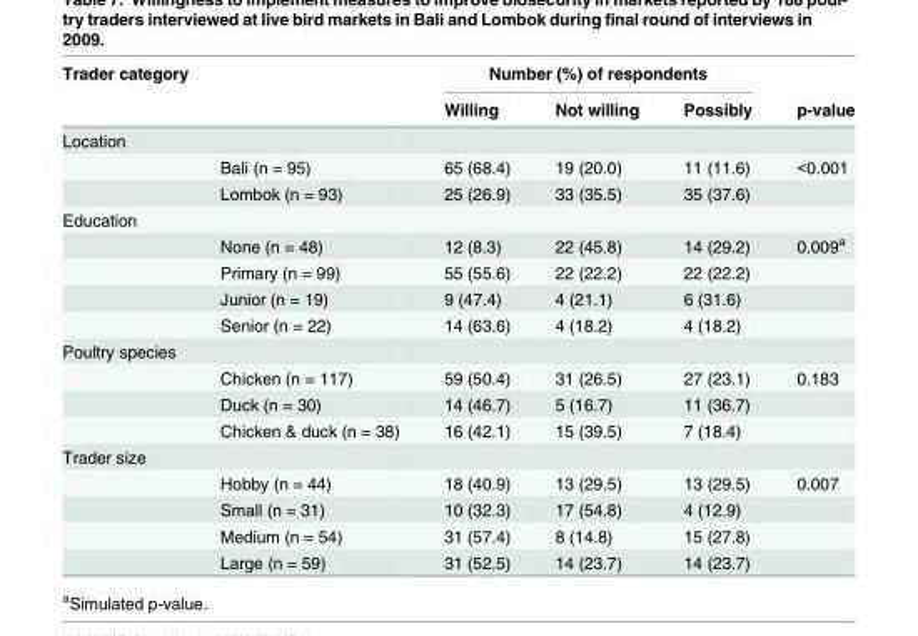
<table><thead><tr><td colspan="2">Trader category</td><td colspan="3">Number (%) of respondents</td><td rowspan="2">p-value</td></tr><tr><td></td><td></td><td>Willing</td><td>Not willing</td><td>Possibly</td></tr></thead><tbody><tr><td colspan="6">Location</td></tr><tr><td></td><td>Bali (n = 95)</td><td>65 (68.4)</td><td>19 (20.0)</td><td>11 (11.6)</td><td>&lt;0.001</td></tr><tr><td></td><td>Lombok (n = 93)</td><td>25 (26.9)</td><td>33 (35.5)</td><td>35 (37.6)</td><td></td></tr><tr><td colspan="6">Education</td></tr><tr><td></td><td>None (n = 48)</td><td>12 (8.3)</td><td>22 (45.8)</td><td>14 (29.2)</td><td>0.009<sup>a</sup></td></tr><tr><td></td><td>Primary (n = 99)</td><td>55 (55.6)</td><td>22 (22.2)</td><td>22 (22.2)</td><td></td></tr><tr><td></td><td>Junior (n = 19)</td><td>9 (47.4)</td><td>4 (21.1)</td><td>6 (31.6)</td><td></td></tr><tr><td></td><td>Senior (n = 22)</td><td>14 (63.6)</td><td>4 (18.2)</td><td>4 (18.2)</td><td></td></tr><tr><td colspan="6">Poultry species</td></tr><tr><td></td><td>Chicken (n = 117)</td><td>59 (50.4)</td><td>31 (26.5)</td><td>27 (23.1)</td><td>0.183</td></tr><tr><td></td><td>Duck (n = 30)</td><td>14 (46.7)</td><td>5 (16.7)</td><td>11 (36.7)</td><td></td></tr><tr><td></td><td>Chicken &amp; duck (n = 38)</td><td>16 (42.1)</td><td>15 (39.5)</td><td>7 (18.4)</td><td></td></tr><tr><td colspan="6">Trader size</td></tr><tr><td></td><td>Hobby (n = 44)</td><td>18 (40.9)</td><td>13 (29.5)</td><td>13 (29.5)</td><td>0.007</td></tr><tr><td></td><td>Small (n = 31)</td><td>10 (32.3)</td><td>17 (54.8)</td><td>4 (12.9)</td><td></td></tr><tr><td></td><td>Medium (n = 54)</td><td>31 (57.4)</td><td>8 (14.8)</td><td>15 (27.8)</td><td></td></tr><tr><td></td><td>Large (n = 59)</td><td>31 (52.5)</td><td>14 (23.7)</td><td>14 (23.7)</td><td></td></tr></tbody></table>